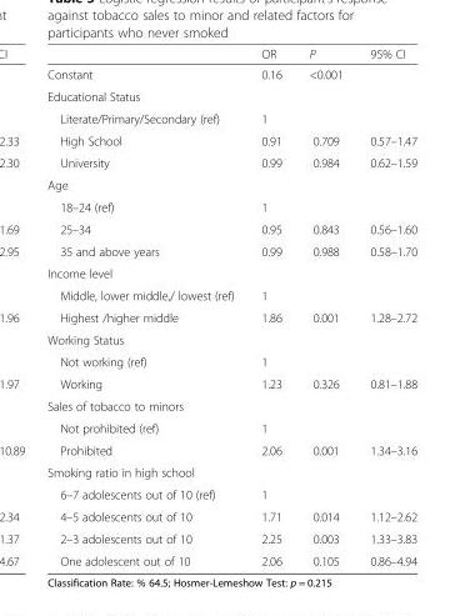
<table><thead><tr><td></td><td>OR</td><td>P</td><td>95% CI</td></tr></thead><tbody><tr><td>Constant</td><td>0.16</td><td>&lt;0.001</td><td></td></tr><tr><td colspan="4">Educational Status</td></tr><tr><td>Literate/Primary/Secondary (ref)</td><td>1</td><td></td><td></td></tr><tr><td>High School</td><td>0.91</td><td>0.709</td><td>0.57–1.47</td></tr><tr><td>University</td><td>0.99</td><td>0.984</td><td>0.62–1.59</td></tr><tr><td colspan="4">Age</td></tr><tr><td>18–24 (ref)</td><td>1</td><td></td><td></td></tr><tr><td>25–34</td><td>0.95</td><td>0.843</td><td>0.56–1.60</td></tr><tr><td>35 and above years</td><td>0.99</td><td>0.988</td><td>0.58–1.70</td></tr><tr><td colspan="4">Income level</td></tr><tr><td>Middle, lower middle,/ lowest (ref)</td><td>1</td><td></td><td></td></tr><tr><td>Highest /higher middle</td><td>1.86</td><td>0.001</td><td>1.28–2.72</td></tr><tr><td colspan="4">Working Status</td></tr><tr><td>Not working (ref)</td><td>1</td><td></td><td></td></tr><tr><td>Working</td><td>1.23</td><td>0.326</td><td>0.81–1.88</td></tr><tr><td colspan="4">Sales of tobacco to minors</td></tr><tr><td>Not prohibited (ref)</td><td>1</td><td></td><td></td></tr><tr><td>Prohibited</td><td>2.06</td><td>0.001</td><td>1.34–3.16</td></tr><tr><td colspan="4">Smoking ratio in high school</td></tr><tr><td>6–7 adolescents out of 10 (ref)</td><td>1</td><td></td><td></td></tr><tr><td>4–5 adolescents out of 10</td><td>1.71</td><td>0.014</td><td>1.12–2.62</td></tr><tr><td>2–3 adolescents out of 10</td><td>2.25</td><td>0.003</td><td>1.33–3.83</td></tr><tr><td>One adolescent out of 10</td><td>2.06</td><td>0.105</td><td>0.86–4.94</td></tr></tbody></table>